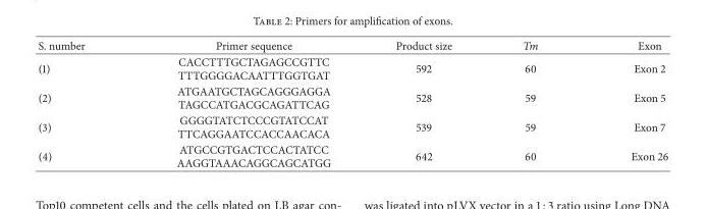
<table><thead><tr><td>S. number</td><td>Primer sequence</td><td>Product size</td><td>Tm</td><td>Exon</td></tr></thead><tbody><tr><td>(1)</td><td>CACCTTTGCTAGAGCCGTTC TTTGGGGACAATTTGGTGAT</td><td>592</td><td>60</td><td>Exon 2</td></tr><tr><td>(2)</td><td>ATGAATGCTAGCAGGGAGGA TAGCCATGACGCAGATTCAG</td><td>528</td><td>59</td><td>Exon 5</td></tr><tr><td>(3)</td><td>GGGGTATCTCCCGTATCCAT TTCAGGAATCCACCAACACA</td><td>539</td><td>59</td><td>Exon 7</td></tr><tr><td>(4)</td><td>ATGCCGTGACTCCACTATCC AAGGTAAACAGGCAGCATGG</td><td>642</td><td>60</td><td>Exon 26</td></tr></tbody></table>